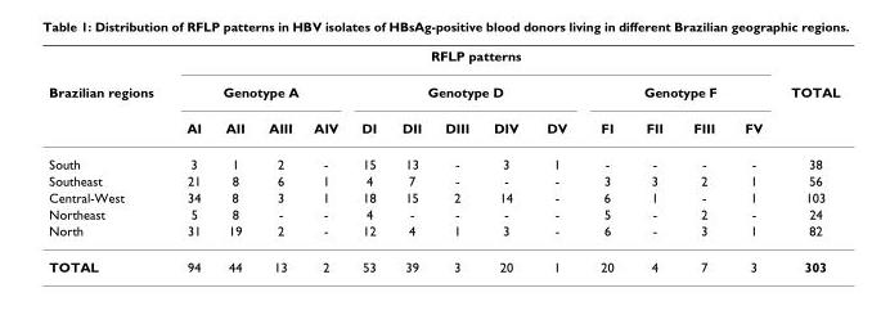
<table><thead><tr><td rowspan="3">Brazilian regions</td><td colspan="13">RFLP patterns</td><td rowspan="3">TOTAL</td></tr><tr><td colspan="4">Genotype A</td><td colspan="5">Genotype D</td><td colspan="4">Genotype F</td></tr><tr><td>AI</td><td>AII</td><td>AIII</td><td>AIV</td><td>DI</td><td>DII</td><td>DIII</td><td>DIV</td><td>DV</td><td>FI</td><td>FII</td><td>FIII</td><td>FV</td></tr></thead><tbody><tr><td>South</td><td>3</td><td>1</td><td>2</td><td>-</td><td>15</td><td>13</td><td>-</td><td>3</td><td>1</td><td>-</td><td>-</td><td>-</td><td>-</td><td>38</td></tr><tr><td>Southeast</td><td>21</td><td>8</td><td>6</td><td>1</td><td>4</td><td>7</td><td>-</td><td>-</td><td>-</td><td>3</td><td>3</td><td>2</td><td>1</td><td>56</td></tr><tr><td>Central-West</td><td>34</td><td>8</td><td>3</td><td>1</td><td>18</td><td>15</td><td>2</td><td>14</td><td>-</td><td>6</td><td>1</td><td>-</td><td>1</td><td>103</td></tr><tr><td>Northeast</td><td>5</td><td>8</td><td>-</td><td>-</td><td>4</td><td>-</td><td>-</td><td>-</td><td>-</td><td>5</td><td>-</td><td>2</td><td>-</td><td>24</td></tr><tr><td>North</td><td>31</td><td>19</td><td>2</td><td>-</td><td>12</td><td>4</td><td>1</td><td>3</td><td>-</td><td>6</td><td>-</td><td>3</td><td>1</td><td>82</td></tr><tr><td>TOTAL</td><td>94</td><td>44</td><td>13</td><td>2</td><td>53</td><td>39</td><td>3</td><td>20</td><td>1</td><td>20</td><td>4</td><td>7</td><td>3</td><td>303</td></tr></tbody></table>